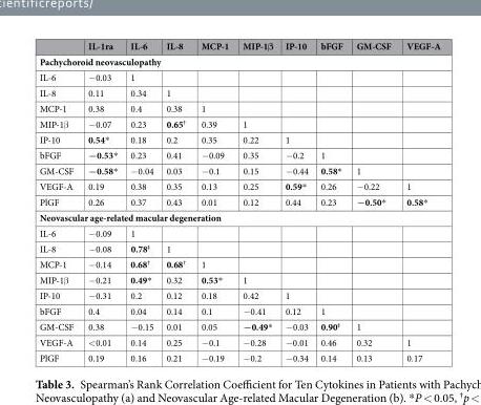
<table><thead><tr><td></td><td>IL-1ra</td><td>IL-6</td><td>IL-8</td><td>MCP-1</td><td>MIP-1β</td><td>IP-10</td><td>bFGF</td><td>GM-CSF</td><td>VEGF-A</td></tr></thead><tbody><tr><td colspan="10">Pachychoroid neovasculopathy</td></tr><tr><td>IL-6</td><td>−0.03</td><td>1</td><td></td><td></td><td></td><td></td><td></td><td></td><td></td></tr><tr><td>IL-8</td><td>0.11</td><td>0.34</td><td>1</td><td></td><td></td><td></td><td></td><td></td><td></td></tr><tr><td>MCP-1</td><td>0.38</td><td>0.4</td><td>0.38</td><td>1</td><td></td><td></td><td></td><td></td><td></td></tr><tr><td>MIP-1β</td><td>−0.07</td><td>0.23</td><td>0.65<sup>†</sup></td><td>0.39</td><td>1</td><td></td><td></td><td></td><td></td></tr><tr><td>IP-10</td><td>0.54*</td><td>0.18</td><td>0.2</td><td>0.35</td><td>0.22</td><td>1</td><td></td><td></td><td></td></tr><tr><td>bFGF</td><td>−0.53*</td><td>0.23</td><td>0.41</td><td>−0.09</td><td>0.35</td><td>−0.2</td><td>1</td><td></td><td></td></tr><tr><td>GM-CSF</td><td>−0.58*</td><td>−0.04</td><td>0.03</td><td>−0.1</td><td>0.15</td><td>−0.44</td><td>0.58*</td><td>1</td><td></td></tr><tr><td>VEGF-A</td><td>0.19</td><td>0.38</td><td>0.35</td><td>0.13</td><td>0.25</td><td>0.59*</td><td>0.26</td><td>−0.22</td><td>1</td></tr><tr><td>PlGF</td><td>0.26</td><td>0.37</td><td>0.43</td><td>0.01</td><td>0.12</td><td>0.44</td><td>0.23</td><td>−0.50*</td><td>0.58*</td></tr><tr><td colspan="10">Neovascular age-related macular degeneration</td></tr><tr><td>IL-6</td><td>−0.09</td><td>1</td><td></td><td></td><td></td><td></td><td></td><td></td><td></td></tr><tr><td>IL-8</td><td>−0.08</td><td>0.78<sup>‡</sup></td><td>1</td><td></td><td></td><td></td><td></td><td></td><td></td></tr><tr><td>MCP-1</td><td>−0.14</td><td>0.68<sup>†</sup></td><td>0.68<sup>†</sup></td><td>1</td><td></td><td></td><td></td><td></td><td></td></tr><tr><td>MIP-1β</td><td>−0.21</td><td>0.49*</td><td>0.32</td><td>0.53*</td><td>1</td><td></td><td></td><td></td><td></td></tr><tr><td>IP-10</td><td>−0.31</td><td>0.2</td><td>0.12</td><td>0.18</td><td>0.42</td><td>1</td><td></td><td></td><td></td></tr><tr><td>bFGF</td><td>0.4</td><td>0.04</td><td>0.14</td><td>0.1</td><td>−0.41</td><td>0.12</td><td>1</td><td></td><td></td></tr><tr><td>GM-CSF</td><td>0.38</td><td>−0.15</td><td>0.01</td><td>0.05</td><td>−0.49*</td><td>−0.03</td><td>0.90<sup>‡</sup></td><td>1</td><td></td></tr><tr><td>VEGF-A</td><td>&lt;0.01</td><td>0.14</td><td>0.25</td><td>−0.1</td><td>−0.28</td><td>−0.01</td><td>0.46</td><td>0.32</td><td>1</td></tr><tr><td>PlGF</td><td>0.19</td><td>0.16</td><td>0.21</td><td>−0.19</td><td>−0.2</td><td>−0.34</td><td>0.14</td><td>0.13</td><td>0.17</td></tr></tbody></table>